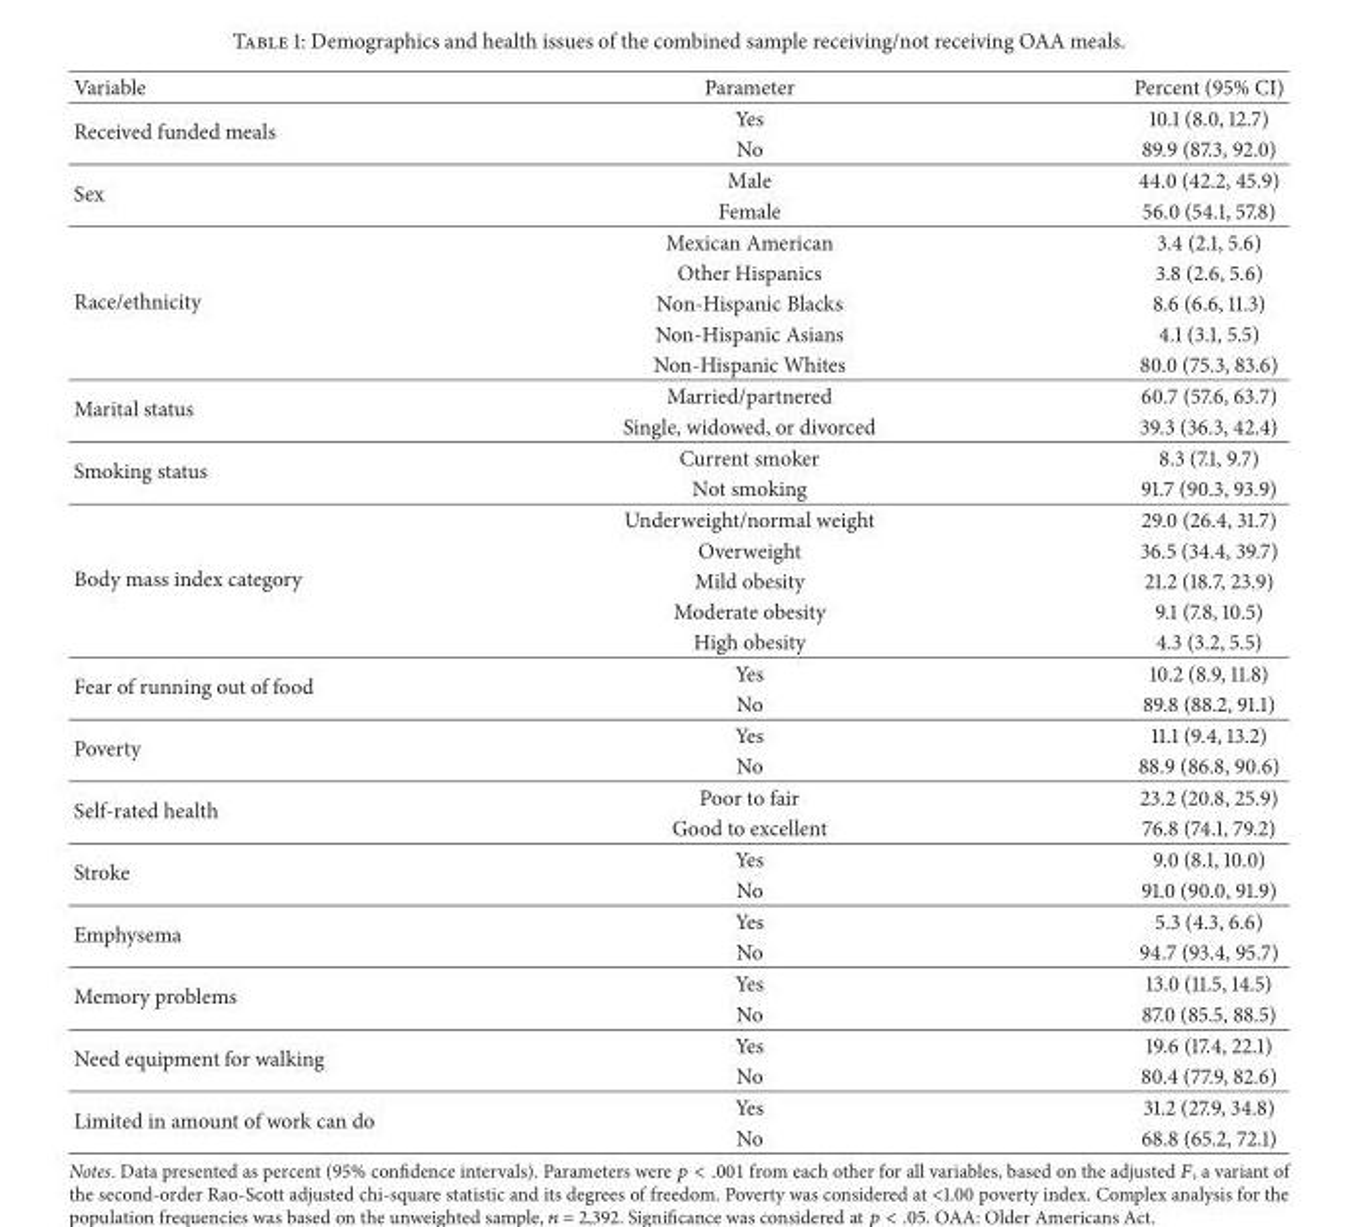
<table><thead><tr><td>Variable</td><td>Parameter</td><td>Percent (95% CI)</td></tr></thead><tbody><tr><td rowspan="2">Received funded meals</td><td>Yes</td><td>10.1 (8.0, 12.7)</td></tr><tr><td>No</td><td>89.9 (87.3, 92.0)</td></tr><tr><td rowspan="2">Sex</td><td>Male</td><td>44.0 (42.2, 45.9)</td></tr><tr><td>Female</td><td>56.0 (54.1, 57.8)</td></tr><tr><td rowspan="5">Race/ethnicity</td><td>Mexican American</td><td>3.4 (2.1, 5.6)</td></tr><tr><td>Other Hispanics</td><td>3.8 (2.6, 5.6)</td></tr><tr><td>Non-Hispanic Blacks</td><td>8.6 (6.6, 11.3)</td></tr><tr><td>Non-Hispanic Asians</td><td>4.1 (3.1, 5.5)</td></tr><tr><td>Non-Hispanic Whites</td><td>80.0 (75.3, 83.6)</td></tr><tr><td rowspan="2">Marital status</td><td>Married/partnered</td><td>60.7 (57.6, 63.7)</td></tr><tr><td>Single, widowed, or divorced</td><td>39.3 (36.3, 42.4)</td></tr><tr><td rowspan="2">Smoking status</td><td>Current smoker</td><td>8.3 (7.1, 9.7)</td></tr><tr><td>Not smoking</td><td>91.7 (90.3, 93.9)</td></tr><tr><td rowspan="5">Body mass index category</td><td>Underweight/normal weight</td><td>29.0 (26.4, 31.7)</td></tr><tr><td>Overweight</td><td>36.5 (34.4, 39.7)</td></tr><tr><td>Mild obesity</td><td>21.2 (18.7, 23.9)</td></tr><tr><td>Moderate obesity</td><td>9.1 (7.8, 10.5)</td></tr><tr><td>High obesity</td><td>4.3 (3.2, 5.5)</td></tr><tr><td rowspan="2">Fear of running out of food</td><td>Yes</td><td>10.2 (8.9, 11.8)</td></tr><tr><td>No</td><td>89.8 (88.2, 91.1)</td></tr><tr><td rowspan="2">Poverty</td><td>Yes</td><td>11.1 (9.4, 13.2)</td></tr><tr><td>No</td><td>88.9 (86.8, 90.6)</td></tr><tr><td rowspan="2">Self-rated health</td><td>Poor to fair</td><td>23.2 (20.8, 25.9)</td></tr><tr><td>Good to excellent</td><td>76.8 (74.1, 79.2)</td></tr><tr><td rowspan="2">Stroke</td><td>Yes</td><td>9.0 (8.1, 10.0)</td></tr><tr><td>No</td><td>91.0 (90.0, 91.9)</td></tr><tr><td rowspan="2">Emphysema</td><td>Yes</td><td>5.3 (4.3, 6.6)</td></tr><tr><td>No</td><td>94.7 (93.4, 95.7)</td></tr><tr><td rowspan="2">Memory problems</td><td>Yes</td><td>13.0 (11.5, 14.5)</td></tr><tr><td>No</td><td>87.0 (85.5, 88.5)</td></tr><tr><td rowspan="2">Need equipment for walking</td><td>Yes</td><td>19.6 (17.4, 22.1)</td></tr><tr><td>No</td><td>80.4 (77.9, 82.6)</td></tr><tr><td rowspan="2">Limited in amount of work can do</td><td>Yes</td><td>31.2 (27.9, 34.8)</td></tr><tr><td>No</td><td>68.8 (65.2, 72.1)</td></tr></tbody></table>